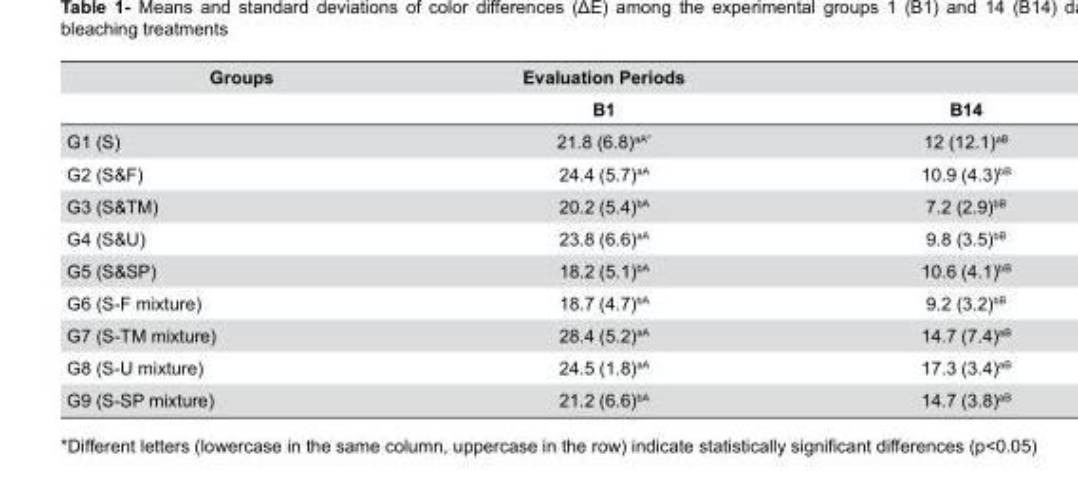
<table><thead><tr><td rowspan="2">Groups</td><td rowspan="2">Evaluation Periods B1</td><td rowspan="2">B14</td></tr><tr></tr></thead><tbody><tr><td>G1 (S)</td><td>21.8 (6.8)<sup>aA</sup>*</td><td>12 (12.1)<sup>aB</sup></td></tr><tr><td>G2 (S&amp;F)</td><td>24.4 (5.7)<sup>aA</sup></td><td>10.9 (4.3)<sup>bB</sup></td></tr><tr><td>G3 (S&amp;TM)</td><td>20.2 (5.4)<sup>bA</sup></td><td>7.2 (2.9)<sup>bB</sup></td></tr><tr><td>G4 (S&amp;U)</td><td>23.8 (6.6)<sup>aA</sup></td><td>9.8 (3.5)<sup>bB</sup></td></tr><tr><td>G5 (S&amp;SP)</td><td>18.2 (5.1)<sup>bA</sup></td><td>10.6 (4.1)<sup>bB</sup></td></tr><tr><td>G6 (S-F mixture)</td><td>18.7 (4.7)<sup>bA</sup></td><td>9.2 (3.2)<sup>bB</sup></td></tr><tr><td>G7 (S-TM mixture)</td><td>28.4 (5.2)<sup>aA</sup></td><td>14.7 (7.4)<sup>aB</sup></td></tr><tr><td>G8 (S-U mixture)</td><td>24.5 (1.8)<sup>aA</sup></td><td>17.3 (3.4)<sup>aB</sup></td></tr><tr><td>G9 (S-SP mixture)</td><td>21.2 (6.6)<sup>bA</sup></td><td>14.7 (3.8)<sup>aB</sup></td></tr></tbody></table>